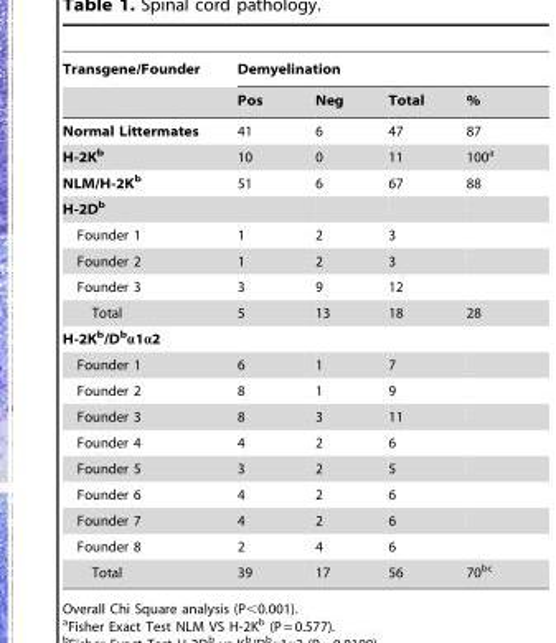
<table><thead><tr><td rowspan="2">Transgene/Founder</td><td colspan="4">Demyelination</td></tr><tr><td>Pos</td><td>Neg</td><td>Total</td><td>%</td></tr></thead><tbody><tr><td>Normal Littermates</td><td>41</td><td>6</td><td>47</td><td>87</td></tr><tr><td>H-2Kb</td><td>10</td><td>0</td><td>11</td><td>100<sup>a</sup></td></tr><tr><td>NLM/H-2Kb</td><td>51</td><td>6</td><td>67</td><td>88</td></tr><tr><td colspan="5">H-2Db</td></tr><tr><td>Founder 1</td><td>1</td><td>2</td><td>3</td><td></td></tr><tr><td>Founder 2</td><td>1</td><td>2</td><td>3</td><td></td></tr><tr><td>Founder 3</td><td>3</td><td>9</td><td>12</td><td></td></tr><tr><td>Total</td><td>5</td><td>13</td><td>18</td><td>28</td></tr><tr><td colspan="5">H-2Kb/Dbα1α2</td></tr><tr><td>Founder 1</td><td>6</td><td>1</td><td>7</td><td></td></tr><tr><td>Founder 2</td><td>8</td><td>1</td><td>9</td><td></td></tr><tr><td>Founder 3</td><td>8</td><td>3</td><td>11</td><td></td></tr><tr><td>Founder 4</td><td>4</td><td>2</td><td>6</td><td></td></tr><tr><td>Founder 5</td><td>3</td><td>2</td><td>5</td><td></td></tr><tr><td>Founder 6</td><td>4</td><td>2</td><td>6</td><td></td></tr><tr><td>Founder 7</td><td>4</td><td>2</td><td>6</td><td></td></tr><tr><td>Founder 8</td><td>2</td><td>4</td><td>6</td><td></td></tr><tr><td>Total</td><td>39</td><td>17</td><td>56</td><td>70<sup>bc</sup></td></tr></tbody></table>